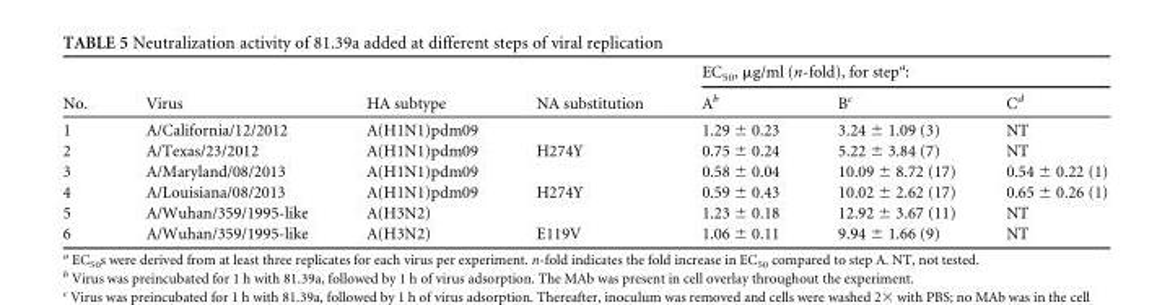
<table><thead><tr><td rowspan="2">No.</td><td rowspan="2">Virus</td><td rowspan="2">HA subtype</td><td rowspan="2">NA substitution</td><td colspan="3">EC<sub>50</sub>, μg/ml (n-fold), for step<sup>a</sup>:</td></tr><tr><td>A<sup>b</sup></td><td>B<sup>c</sup></td><td>C<sup>d</sup></td></tr></thead><tbody><tr><td>1</td><td>A/California/12/2012</td><td>A(H1N1)pdm09</td><td></td><td>1.29 ± 0.23</td><td>3.24 ± 1.09 (3)</td><td>NT</td></tr><tr><td>2</td><td>A/Texas/23/2012</td><td>A(H1N1)pdm09</td><td>H274Y</td><td>0.75 ± 0.24</td><td>5.22 ± 3.84 (7)</td><td>NT</td></tr><tr><td>3</td><td>A/Maryland/08/2013</td><td>A(H1N1)pdm09</td><td></td><td>0.58 ± 0.04</td><td>10.09 ± 8.72 (17)</td><td>0.54 ± 0.22 (1)</td></tr><tr><td>4</td><td>A/Louisiana/08/2013</td><td>A(H1N1)pdm09</td><td>H274Y</td><td>0.59 ± 0.43</td><td>10.02 ± 2.62 (17)</td><td>0.65 ± 0.26 (1)</td></tr><tr><td>5</td><td>A/Wuhan/359/1995-like</td><td>A(H3N2)</td><td></td><td>1.23 ± 0.18</td><td>12.92 ± 3.67 (11)</td><td>NT</td></tr><tr><td>6</td><td>A/Wuhan/359/1995-like</td><td>A(H3N2)</td><td>E119V</td><td>1.06 ± 0.11</td><td>9.94 ± 1.66 (9)</td><td>NT</td></tr></tbody></table>